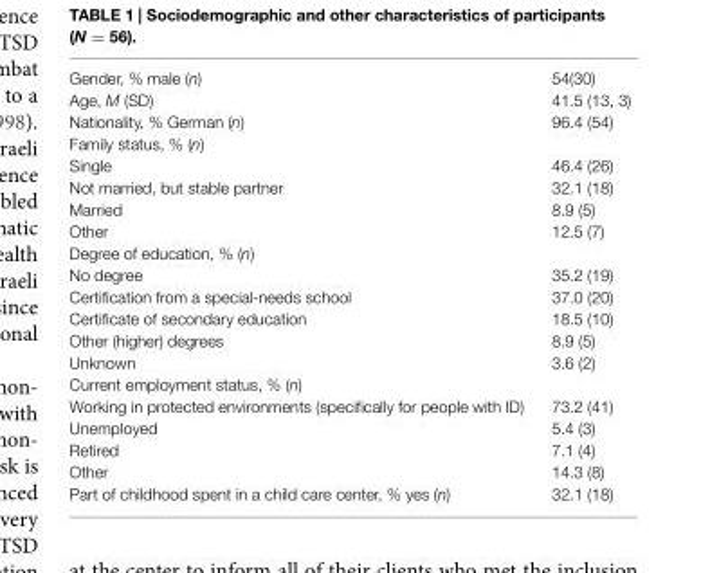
<table><tbody><tr><td>Gender, % male (n)</td><td>54(30)</td></tr><tr><td>Age, M (SD)</td><td>41.5 (13, 3)</td></tr><tr><td>Nationality, % German (n)</td><td>96.4 (54)</td></tr><tr><td colspan="2">Family status, % (n)</td></tr><tr><td>Single</td><td>46.4 (26)</td></tr><tr><td>Not married, but stable partner</td><td>32.1 (18)</td></tr><tr><td>Married</td><td>8.9 (5)</td></tr><tr><td>Other</td><td>12.5 (7)</td></tr><tr><td colspan="2">Degree of education, % (n)</td></tr><tr><td>No degree</td><td>35.2 (19)</td></tr><tr><td>Certification from a special-needs school</td><td>37.0 (20)</td></tr><tr><td>Certificate of secondary education</td><td>18.5 (10)</td></tr><tr><td>Other (higher) degrees</td><td>8.9 (5)</td></tr><tr><td>Unknown</td><td>3.6 (2)</td></tr><tr><td colspan="2">Current employment status, % (n)</td></tr><tr><td>Working in protected environments (specifically for people with ID)</td><td>73.2 (41)</td></tr><tr><td>Unemployed</td><td>5.4 (3)</td></tr><tr><td>Retired</td><td>7.1 (4)</td></tr><tr><td>Other</td><td>14.3 (8)</td></tr><tr><td>Part of childhood spent in a child care center, % yes (n)</td><td>32.1 (18)</td></tr></tbody></table>